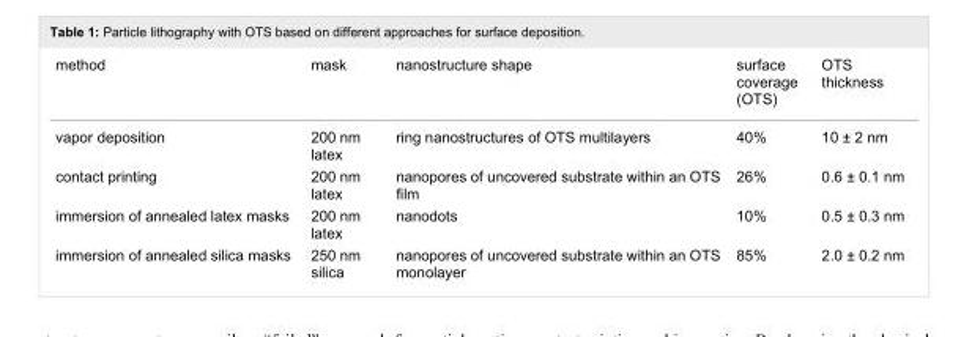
<table><tbody><tr><td>method</td><td>mask</td><td>nanostructure shape</td><td>surface coverage (OTS)</td><td>OTS thickness</td></tr><tr><td>vapor deposition</td><td>200 nm latex</td><td>ring nanostructures of OTS multilayers</td><td>40%</td><td>10 ± 2 nm</td></tr><tr><td>contact printing</td><td>200 nm latex</td><td>nanopores of uncovered substrate within an OTS film</td><td>26%</td><td>0.6 ± 0.1 nm</td></tr><tr><td>immersion of annealed latex masks</td><td>200 nm latex</td><td>nanodots</td><td>10%</td><td>0.5 ± 0.3 nm</td></tr><tr><td>immersion of annealed silica masks</td><td>250 nm silica</td><td>nanopores of uncovered substrate within an OTS monolayer</td><td>85%</td><td>2.0 ± 0.2 nm</td></tr></tbody></table>